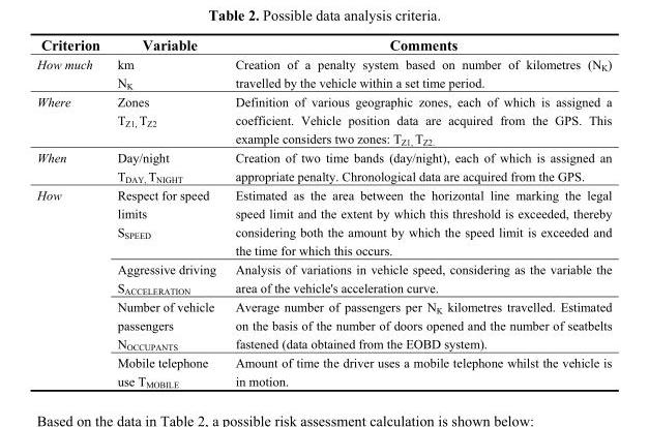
<table><thead><tr><td>Criterion</td><td>Variable</td><td>Comments</td></tr></thead><tbody><tr><td>How much</td><td>km N<sub>K</sub></td><td>Creation of a penalty system based on number of kilometres (N<sub>K</sub>) travelled by the vehicle within a set time period.</td></tr><tr><td>Where</td><td>Zones T<sub>Z1</sub>, T<sub>Z2</sub></td><td>Definition of various geographic zones, each of which is assigned a coefficient. Vehicle position data are acquired from the GPS. This example considers two zones: T<sub>Z1</sub>, T<sub>Z2</sub>.</td></tr><tr><td>When</td><td>Day/night T<sub>DAY</sub>, T<sub>NIGHT</sub></td><td>Creation of two time bands (day/night), each of which is assigned an appropriate penalty. Chronological data are acquired from the GPS.</td></tr><tr><td rowspan="4">How</td><td>Respect for speed limits S<sub>SPEED</sub></td><td>Estimated as the area between the horizontal line marking the legal speed limit and the extent by which this threshold is exceeded, thereby considering both the amount by which the speed limit is exceeded and the time for which this occurs.</td></tr><tr><td>Aggressive driving S<sub>ACCELERATION</sub></td><td>Analysis of variations in vehicle speed, considering as the variable the area of the vehicle&#x27;s acceleration curve.</td></tr><tr><td>Number of vehicle passengers N<sub>OCCUPANTS</sub></td><td>Average number of passengers per N<sub>K</sub> kilometres travelled. Estimated on the basis of the number of doors opened and the number of seatbelts fastened (data obtained from the EOBD system).</td></tr><tr><td>Mobile telephone use T<sub>MOBILE</sub></td><td>Amount of time the driver uses a mobile telephone whilst the vehicle is in motion.</td></tr></tbody></table>